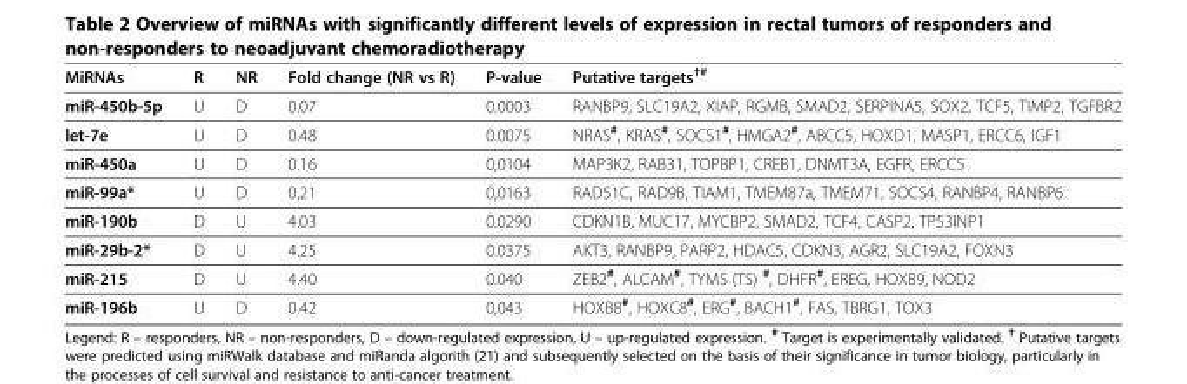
<table><thead><tr><td>MiRNAs</td><td>R</td><td>NR</td><td>Fold change (NR vs R)</td><td>P-value</td><td>Putative targets<sup>†#</sup></td></tr></thead><tbody><tr><td>miR-450b-5p</td><td>U</td><td>D</td><td>0.07</td><td>0.0003</td><td>RANBP9, SLC19A2, XIAP, RGMB, SMAD2, SERPINA5, SOX2, TCF5, TIMP2, TGFBR2</td></tr><tr><td>let-7e</td><td>U</td><td>D</td><td>0.48</td><td>0.0075</td><td>NRAS<sup>#</sup>, KRAS<sup>#</sup>, SOCS1<sup>#</sup>, HMGA2<sup>#</sup>, ABCC5, HOXD1, MASP1, ERCC6, IGF1</td></tr><tr><td>miR-450a</td><td>U</td><td>D</td><td>0.16</td><td>0,0104</td><td>MAP3K2, RAB31, TOPBP1, CREB1, DNMT3A, EGFR, ERCC5</td></tr><tr><td>miR-99a*</td><td>U</td><td>D</td><td>0,21</td><td>0,0163</td><td>RAD51C, RAD9B, TIAM1, TMEM87a, TMEM71, SOCS4, RANBP4, RANBP6</td></tr><tr><td>miR-190b</td><td>D</td><td>U</td><td>4.03</td><td>0.0290</td><td>CDKN1B, MUC17, MYCBP2, SMAD2, TCF4, CASP2, TP53INP1</td></tr><tr><td>miR-29b-2*</td><td>D</td><td>U</td><td>4.25</td><td>0.0375</td><td>AKT3, RANBP9, PARP2, HDAC5, CDKN3, AGR2, SLC19A2, FOXN3</td></tr><tr><td>miR-215</td><td>D</td><td>U</td><td>4.40</td><td>0.040</td><td>ZEB2<sup>#</sup>, ALCAM<sup>#</sup>, TYMS (TS) <sup>#</sup>, DHFR<sup>#</sup>, EREG, HOXB9, NOD2</td></tr><tr><td>miR-196b</td><td>U</td><td>D</td><td>0.42</td><td>0,043</td><td>HOXB8<sup>#</sup>, HOXC8<sup>#</sup>, ERG<sup>#</sup>, BACH1<sup>#</sup>, FAS, TBRG1, TOX3</td></tr></tbody></table>